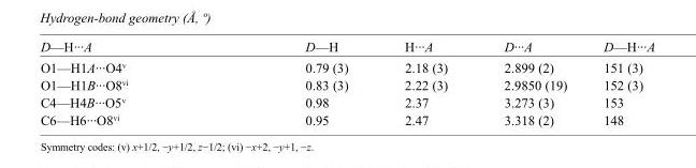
<table><tbody><tr><td>D—H···A</td><td>D—H</td><td>H···A</td><td>D···A</td><td>D—H···A</td></tr><tr><td>O1—H1A···O4<sup>v</sup></td><td>0.79 (3)</td><td>2.18 (3)</td><td>2.899 (2)</td><td>151 (3)</td></tr><tr><td>O1—H1B···O8<sup>vi</sup></td><td>0.83 (3)</td><td>2.22 (3)</td><td>2.9850 (19)</td><td>152 (3)</td></tr><tr><td>C4—H4B···O5<sup>v</sup></td><td>0.98</td><td>2.37</td><td>3.273 (3)</td><td>153</td></tr><tr><td>C6—H6···O8<sup>vi</sup></td><td>0.95</td><td>2.47</td><td>3.318 (2)</td><td>148</td></tr></tbody></table>